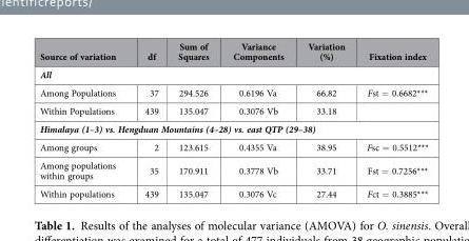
<table><thead><tr><td>Source of variation</td><td>df</td><td>Sum of Squares</td><td>Variance Components</td><td>Variation (%)</td><td>Fixation index</td></tr></thead><tbody><tr><td colspan="6">All</td></tr><tr><td>Among Populations</td><td>37</td><td>294.526</td><td>0.6196 Va</td><td>66.82</td><td>Fst = 0.6682***</td></tr><tr><td>Within Populations</td><td>439</td><td>135.047</td><td>0.3076 Vb</td><td>33.18</td><td></td></tr><tr><td colspan="6">Himalaya (1–3) vs. Hengduan Mountains (4–28) vs. east QTP (29–38)</td></tr><tr><td>Among groups</td><td>2</td><td>123.615</td><td>0.4355 Va</td><td>38.95</td><td>Fsc = 0.5512***</td></tr><tr><td>Among populations within groups</td><td>35</td><td>170.911</td><td>0.3778 Vb</td><td>33.71</td><td>Fst = 0.7256***</td></tr><tr><td>Within populations</td><td>439</td><td>135.047</td><td>0.3076 Vc</td><td>27.44</td><td>Fct = 0.3885***</td></tr></tbody></table>